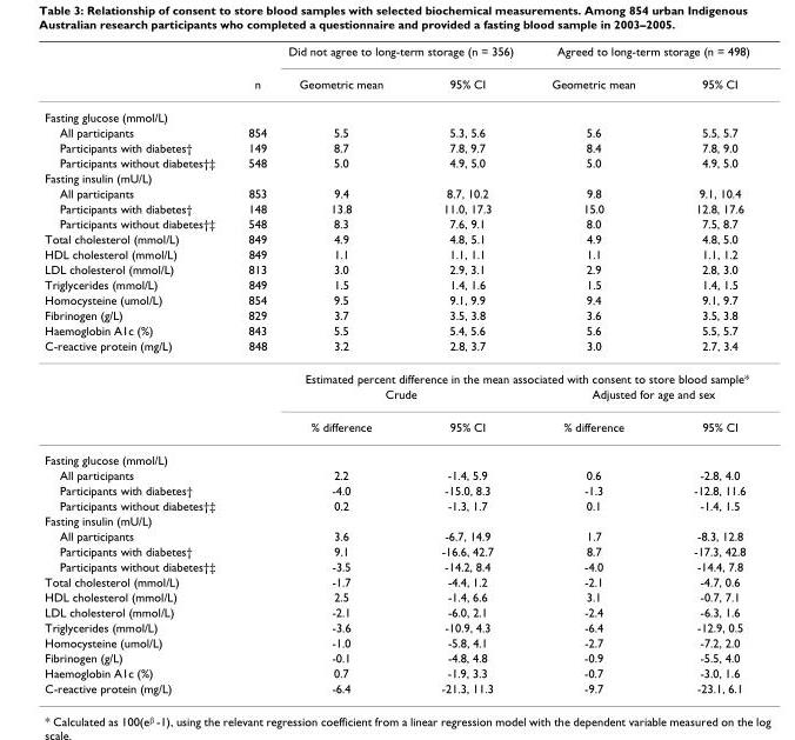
<table><thead><tr><td rowspan="2"></td><td rowspan="2">n</td><td colspan="2">Did not agree to long-term storage (n = 356)</td><td colspan="2">Agreed to long-term storage (n = 498)</td></tr><tr><td>Geometric mean</td><td>95% CI</td><td>Geometric mean</td><td>95% CI</td></tr></thead><tbody><tr><td colspan="6">Fasting glucose (mmol/L)</td></tr><tr><td>All participants</td><td>854</td><td>5.5</td><td>5.3, 5.6</td><td>5.6</td><td>5.5, 5.7</td></tr><tr><td>Participants with diabetes†</td><td>149</td><td>8.7</td><td>7.8, 9.7</td><td>8.4</td><td>7.8, 9.0</td></tr><tr><td>Participants without diabetes†‡</td><td>548</td><td>5.0</td><td>4.9, 5.0</td><td>5.0</td><td>4.9, 5.0</td></tr><tr><td colspan="6">Fasting insulin (mU/L)</td></tr><tr><td>All participants</td><td>853</td><td>9.4</td><td>8.7, 10.2</td><td>9.8</td><td>9.1, 10.4</td></tr><tr><td>Participants with diabetes†</td><td>148</td><td>13.8</td><td>11.0, 17.3</td><td>15.0</td><td>12.8, 17.6</td></tr><tr><td>Participants without diabetes†‡</td><td>548</td><td>8.3</td><td>7.6, 9.1</td><td>8.0</td><td>7.5, 8.7</td></tr><tr><td>Total cholesterol (mmol/L)</td><td>849</td><td>4.9</td><td>4.8, 5.1</td><td>4.9</td><td>4.8, 5.0</td></tr><tr><td>HDL cholesterol (mmol/L)</td><td>849</td><td>1.1</td><td>1.1, 1.1</td><td>1.1</td><td>1.1, 1.2</td></tr><tr><td>LDL cholesterol (mmol/L)</td><td>813</td><td>3.0</td><td>2.9, 3.1</td><td>2.9</td><td>2.8, 3.0</td></tr><tr><td>Triglycerides (mmol/L)</td><td>849</td><td>1.5</td><td>1.4, 1.6</td><td>1.5</td><td>1.4, 1.5</td></tr><tr><td>Homocysteine (umol/L)</td><td>854</td><td>9.5</td><td>9.1, 9.9</td><td>9.4</td><td>9.1, 9.7</td></tr><tr><td>Fibrinogen (g/L)</td><td>829</td><td>3.7</td><td>3.5, 3.8</td><td>3.6</td><td>3.5, 3.8</td></tr><tr><td>Haemoglobin A1c (%)</td><td>843</td><td>5.5</td><td>5.4, 5.6</td><td>5.6</td><td>5.5, 5.7</td></tr><tr><td rowspan="4">C-reactive protein (mg/L)</td><td>848</td><td>3.2</td><td>2.8, 3.7</td><td>3.0</td><td>2.7, 3.4</td></tr><tr><td></td><td colspan="4">Estimated percent difference in the mean associated with consent to store blood sample*</td></tr><tr><td></td><td colspan="2">Crude</td><td colspan="2">Adjusted for age and sex</td></tr><tr><td></td><td>% difference</td><td>95% CI</td><td>% difference</td><td>95% CI</td></tr><tr><td colspan="6">Fasting glucose (mmol/L)</td></tr><tr><td>All participants</td><td></td><td>2.2</td><td>-1.4, 5.9</td><td>0.6</td><td>-2.8, 4.0</td></tr><tr><td>Participants with diabetes†</td><td></td><td>-4.0</td><td>-15.0, 8.3</td><td>-1.3</td><td>-12.8, 11.6</td></tr><tr><td>Participants without diabetes†‡</td><td></td><td>0.2</td><td>-1.3, 1.7</td><td>0.1</td><td>-1.4, 1.5</td></tr><tr><td colspan="6">Fasting insulin (mU/L)</td></tr><tr><td>All participants</td><td></td><td>3.6</td><td>-6.7, 14.9</td><td>1.7</td><td>-8.3, 12.8</td></tr><tr><td>Participants with diabetes†</td><td></td><td>9.1</td><td>-16.6, 42.7</td><td>8.7</td><td>-17.3, 42.8</td></tr><tr><td>Participants without diabetes†‡</td><td></td><td>-3.5</td><td>-14.2, 8.4</td><td>-4.0</td><td>-14.4, 7.8</td></tr><tr><td>Total cholesterol (mmol/L)</td><td></td><td>-1.7</td><td>-4.4, 1.2</td><td>-2.1</td><td>-4.7, 0.6</td></tr><tr><td>HDL cholesterol (mmol/L)</td><td></td><td>2.5</td><td>-1.4, 6.6</td><td>3.1</td><td>-0.7, 7.1</td></tr><tr><td>LDL cholesterol (mmol/L)</td><td></td><td>-2.1</td><td>-6.0, 2.1</td><td>-2.4</td><td>-6.3, 1.6</td></tr><tr><td>Triglycerides (mmol/L)</td><td></td><td>-3.6</td><td>-10.9, 4.3</td><td>-6.4</td><td>-12.9, 0.5</td></tr><tr><td>Homocysteine (umol/L)</td><td></td><td>-1.0</td><td>-5.8, 4.1</td><td>-2.7</td><td>-7.2, 2.0</td></tr><tr><td>Fibrinogen (g/L)</td><td></td><td>-0.1</td><td>-4.8, 4.8</td><td>-0.9</td><td>-5.5, 4.0</td></tr><tr><td>Haemoglobin A1c (%)</td><td></td><td>0.7</td><td>-1.9, 3.3</td><td>-0.7</td><td>-3.0, 1.6</td></tr><tr><td>C-reactive protein (mg/L)</td><td></td><td>-6.4</td><td>-21.3, 11.3</td><td>-9.7</td><td>-23.1, 6.1</td></tr></tbody></table>